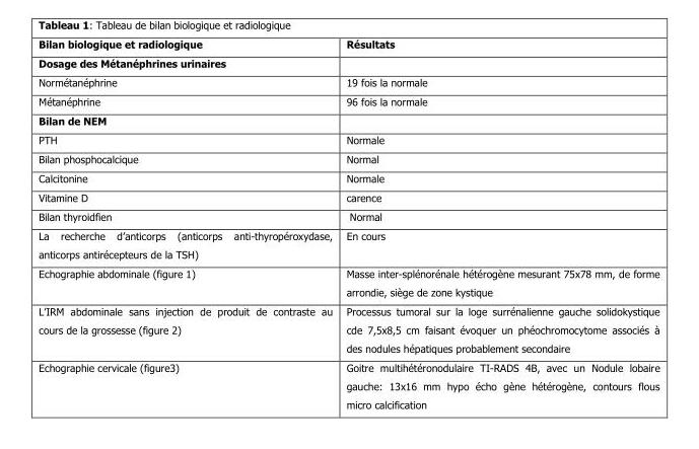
<table><thead><tr><td>Bilan biologique et radiologique</td><td>Résultats</td></tr></thead><tbody><tr><td colspan="2">Dosage des Métanéphrines urinaires</td></tr><tr><td>Normétanéphrine</td><td>19 fois la normale</td></tr><tr><td>Métanéphrine</td><td>96 fois la normale</td></tr><tr><td colspan="2">Bilan de NEM</td></tr><tr><td>PTH</td><td>Normale</td></tr><tr><td>Bilan phosphocalcique</td><td>Normal</td></tr><tr><td>Calcitonine</td><td>Normale</td></tr><tr><td>Vitamine D</td><td>carence</td></tr><tr><td>Bilan thyroidfien</td><td>Normal</td></tr><tr><td>La recherche d’anticorps (anticorps anti-thyropéroxydase, anticorps antirécepteurs de la TSH)</td><td>En cours</td></tr><tr><td>Echographie abdominale (figure 1)</td><td>Masse inter-splénorénale hétérogène mesurant 75x78 mm, de forme arrondie, siège de zone kystique</td></tr><tr><td>L’IRM abdominale sans injection de produit de contraste au cours de la grossesse (figure 2)</td><td>Processus tumoral sur la loge surrénalienne gauche solidokystique cde 7,5x8,5 cm faisant évoquer un phéochromocytome associés à des nodules hépatiques probablement secondaire</td></tr><tr><td>Echographie cervicale (figure3)</td><td>Goitre multihétéronodulaire TI-RADS 4B, avec un Nodule lobaire gauche: 13x16 mm hypo écho gène hétérogène, contours flous micro calcification</td></tr></tbody></table>